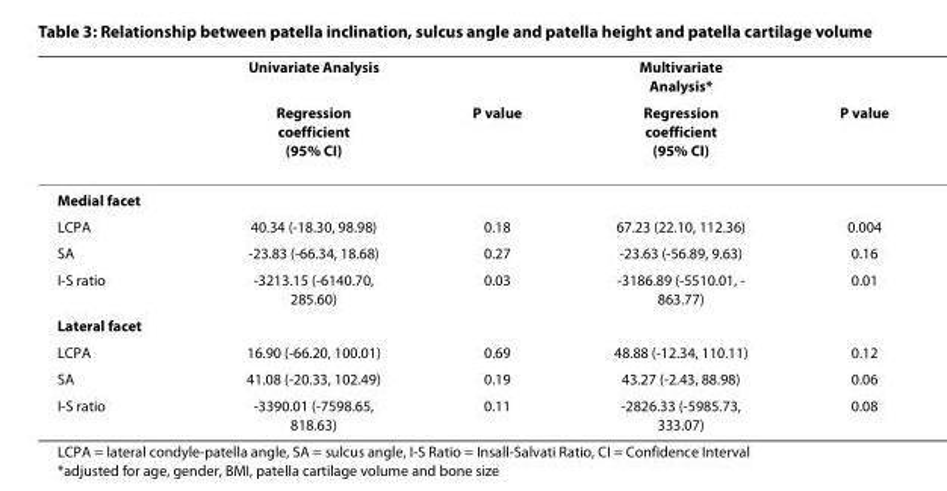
<table><thead><tr><td rowspan="2"></td><td rowspan="2">Univariate Analysis Regression coefficient (95% CI)</td><td rowspan="2">P value</td><td rowspan="2">Multivariate Analysis* Regression coefficient (95% CI)</td><td rowspan="2">P value</td></tr><tr></tr></thead><tbody><tr><td colspan="5">Medial facet</td></tr><tr><td>LCPA</td><td>40.34 (-18.30, 98.98)</td><td>0.18</td><td>67.23 (22.10, 112.36)</td><td>0.004</td></tr><tr><td>SA</td><td>-23.83 (-66.34, 18.68)</td><td>0.27</td><td>-23.63 (-56.89, 9.63)</td><td>0.16</td></tr><tr><td>I-S ratio</td><td>-3213.15 (-6140.70, 285.60)</td><td>0.03</td><td>-3186.89 (-5510.01, - 863.77)</td><td>0.01</td></tr><tr><td colspan="5">Lateral facet</td></tr><tr><td>LCPA</td><td>16.90 (-66.20, 100.01)</td><td>0.69</td><td>48.88 (-12.34, 110.11)</td><td>0.12</td></tr><tr><td>SA</td><td>41.08 (-20.33, 102.49)</td><td>0.19</td><td>43.27 (-2.43, 88.98)</td><td>0.06</td></tr><tr><td>I-S ratio</td><td>-3390.01 (-7598.65, 818.63)</td><td>0.11</td><td>-2826.33 (-5985.73, 333.07)</td><td>0.08</td></tr></tbody></table>